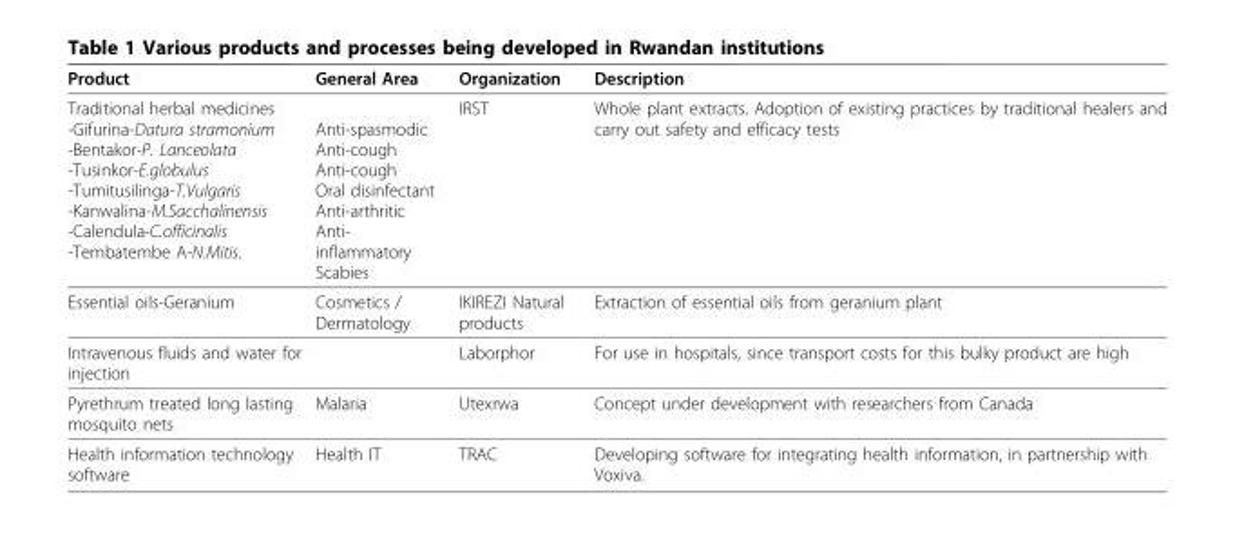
<table><thead><tr><td>Product</td><td>General Area</td><td>Organization</td><td>Description</td></tr></thead><tbody><tr><td>Traditional herbal medicines -Gifurina-Datura stramonium -Bentakor-P. Lanceolata -Tusinkor-E.globulus -Tumitusilinga-T.Vulgaris -Kanwalina-M.Sacchalinensis -Calendula-C.officinalis -Tembatembe A-N.Mitis.</td><td>Anti-spasmodic Anti-cough Anti-cough Oral disinfectant Anti-arthritic Anti- inflammatory Scabies</td><td>IRST</td><td>Whole plant extracts. Adoption of existing practices by traditional healers and carry out safety and efficacy tests</td></tr><tr><td>Essential oils-Geranium</td><td>Cosmetics / Dermatology</td><td>IKIREZI Natural products</td><td>Extraction of essential oils from geranium plant</td></tr><tr><td>Intravenous fluids and water for injection</td><td></td><td>Laborphor</td><td>For use in hospitals, since transport costs for this bulky product are high</td></tr><tr><td>Pyrethrum treated long lasting mosquito nets</td><td>Malaria</td><td>Utexrwa</td><td>Concept under development with researchers from Canada</td></tr><tr><td>Health information technology software</td><td>Health IT</td><td>TRAC</td><td>Developing software for integrating health information, in partnership with Voxiva.</td></tr></tbody></table>